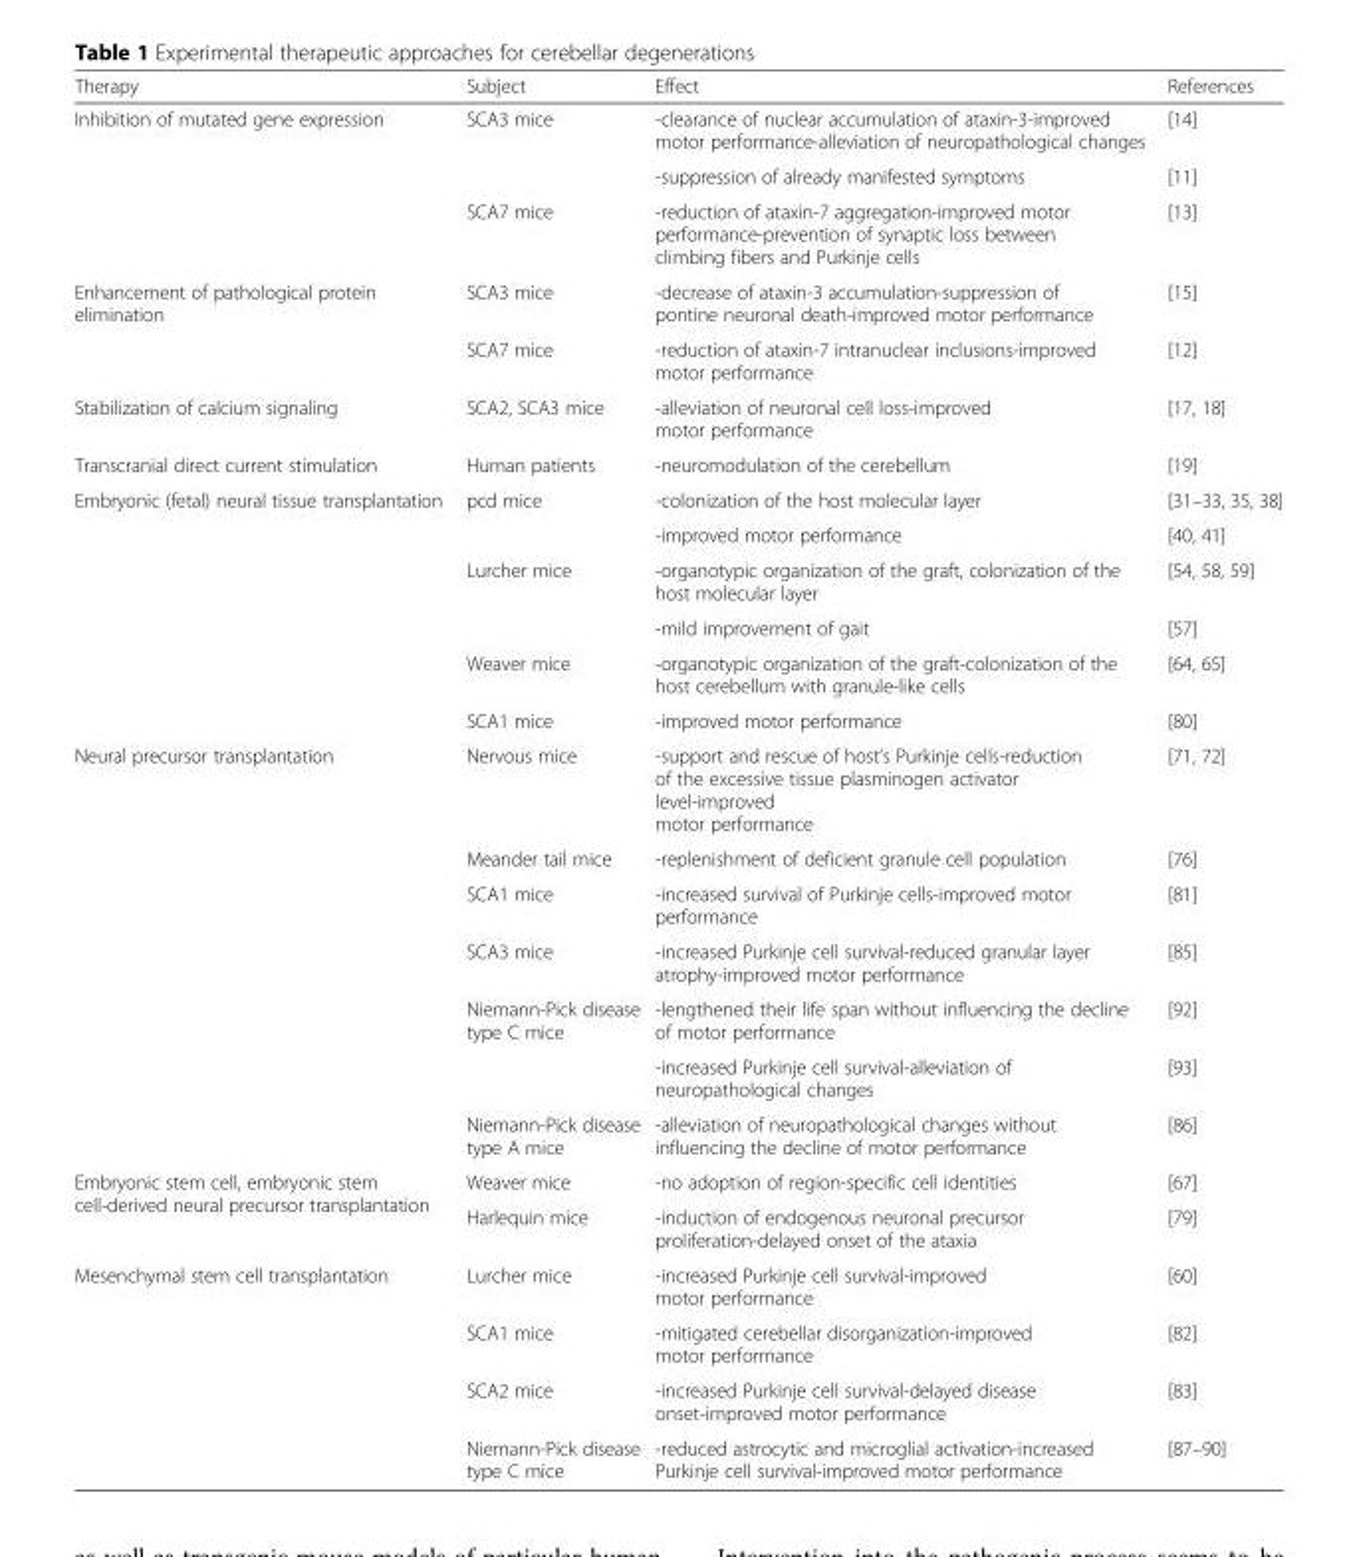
<table><thead><tr><td>Therapy</td><td>Subject</td><td>Effect</td><td>References</td></tr></thead><tbody><tr><td rowspan="3">Inhibition of mutated gene expression</td><td rowspan="2">SCA3 mice</td><td>-clearance of nuclear accumulation of ataxin-3-improved motor performance-alleviation of neuropathological changes</td><td>[14]</td></tr><tr><td>-suppression of already manifested symptoms</td><td>[11]</td></tr><tr><td>SCA7 mice</td><td>-reduction of ataxin-7 aggregation-improved motor performance-prevention of synaptic loss between climbing fibers and Purkinje cells</td><td>[13]</td></tr><tr><td rowspan="2">Enhancement of pathological protein elimination</td><td>SCA3 mice</td><td>-decrease of ataxin-3 accumulation-suppression of pontine neuronal death-improved motor performance</td><td>[15]</td></tr><tr><td>SCA7 mice</td><td>-reduction of ataxin-7 intranuclear inclusions-improved motor performance</td><td>[12]</td></tr><tr><td>Stabilization of calcium signaling</td><td>SCA2, SCA3 mice</td><td>-alleviation of neuronal cell loss-improved motor performance</td><td>[17, 18]</td></tr><tr><td>Transcranial direct current stimulation</td><td>Human patients</td><td>-neuromodulation of the cerebellum</td><td>[19]</td></tr><tr><td rowspan="6">Embryonic (fetal) neural tissue transplantation</td><td rowspan="2">pcd mice</td><td>-colonization of the host molecular layer</td><td>[31–33, 35, 38]</td></tr><tr><td>-improved motor performance</td><td>[40, 41]</td></tr><tr><td rowspan="2">Lurcher mice</td><td>-organotypic organization of the graft, colonization of the host molecular layer</td><td>[54, 58, 59]</td></tr><tr><td>-mild improvement of gait</td><td>[57]</td></tr><tr><td>Weaver mice</td><td>-organotypic organization of the graft-colonization of the host cerebellum with granule-like cells</td><td>[64, 65]</td></tr><tr><td>SCA1 mice</td><td>-improved motor performance</td><td>[80]</td></tr><tr><td rowspan="7">Neural precursor transplantation</td><td>Nervous mice</td><td>-support and rescue of host’s Purkinje cells-reduction of the excessive tissue plasminogen activator level-improved motor performance</td><td>[71, 72]</td></tr><tr><td>Meander tail mice</td><td>-replenishment of deficient granule cell population</td><td>[76]</td></tr><tr><td>SCA1 mice</td><td>-increased survival of Purkinje cells-improved motor performance</td><td>[81]</td></tr><tr><td>SCA3 mice</td><td>-increased Purkinje cell survival-reduced granular layer atrophy-improved motor performance</td><td>[85]</td></tr><tr><td rowspan="2">Niemann-Pick disease type C mice</td><td>-lengthened their life span without influencing the decline of motor performance</td><td>[92]</td></tr><tr><td>-increased Purkinje cell survival-alleviation of neuropathological changes</td><td>[93]</td></tr><tr><td>Niemann-Pick disease type A mice</td><td>-alleviation of neuropathological changes without influencing the decline of motor performance</td><td>[86]</td></tr><tr><td rowspan="2">Embryonic stem cell, embryonic stem cell-derived neural precursor transplantation</td><td>Weaver mice</td><td>-no adoption of region-specific cell identities</td><td>[67]</td></tr><tr><td>Harlequin mice</td><td>-induction of endogenous neuronal precursor proliferation-delayed onset of the ataxia</td><td>[79]</td></tr><tr><td rowspan="4">Mesenchymal stem cell transplantation</td><td>Lurcher mice</td><td>-increased Purkinje cell survival-improved motor performance</td><td>[60]</td></tr><tr><td>SCA1 mice</td><td>-mitigated cerebellar disorganization-improved motor performance</td><td>[82]</td></tr><tr><td>SCA2 mice</td><td>-increased Purkinje cell survival-delayed disease onset-improved motor performance</td><td>[83]</td></tr><tr><td>Niemann-Pick disease type C mice</td><td>-reduced astrocytic and microglial activation-increased Purkinje cell survival-improved motor performance</td><td>[87–90]</td></tr></tbody></table>